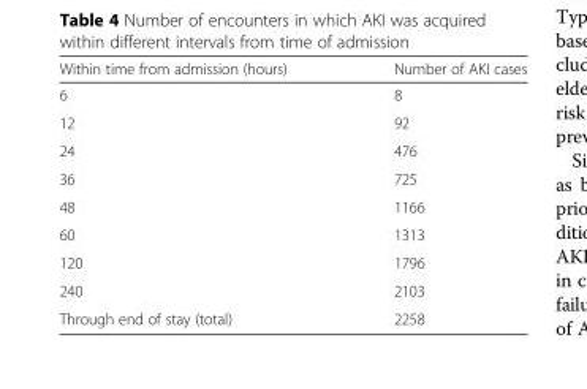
<table><thead><tr><td>Within time from admission (hours)</td><td>Number of AKI cases</td></tr></thead><tbody><tr><td>6</td><td>8</td></tr><tr><td>12</td><td>92</td></tr><tr><td>24</td><td>476</td></tr><tr><td>36</td><td>725</td></tr><tr><td>48</td><td>1166</td></tr><tr><td>60</td><td>1313</td></tr><tr><td>120</td><td>1796</td></tr><tr><td>240</td><td>2103</td></tr><tr><td>Through end of stay (total)</td><td>2258</td></tr></tbody></table>